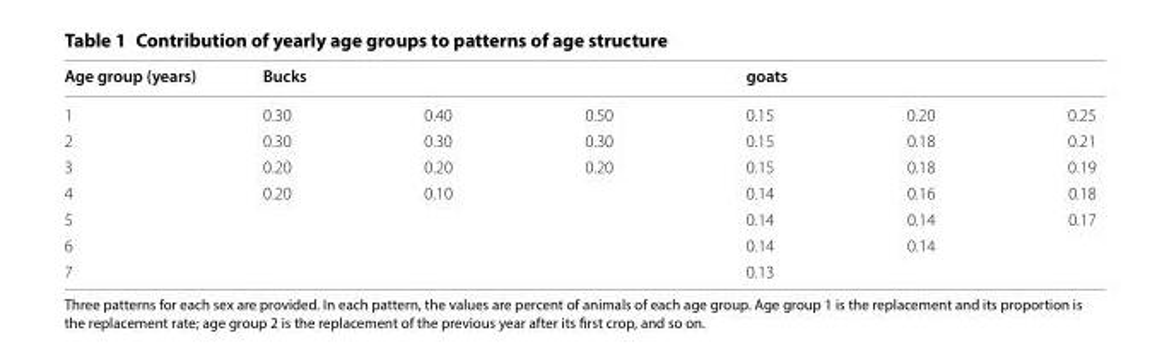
<table><thead><tr><td rowspan="2">Age group (years) 1</td><td colspan="3">Bucks</td><td colspan="3">goats</td></tr><tr><td>0.30</td><td>0.40</td><td>0.50</td><td>0.15</td><td>0.20</td><td>0.25</td></tr></thead><tbody><tr><td>2</td><td>0.30</td><td>0.30</td><td>0.30</td><td>0.15</td><td>0.18</td><td>0.21</td></tr><tr><td>3</td><td>0.20</td><td>0.20</td><td>0.20</td><td>0.15</td><td>0.18</td><td>0.19</td></tr><tr><td>4</td><td>0.20</td><td>0.10</td><td></td><td>0.14</td><td>0.16</td><td>0.18</td></tr><tr><td>5</td><td></td><td></td><td></td><td>0.14</td><td>0.14</td><td>0.17</td></tr><tr><td>6</td><td></td><td></td><td></td><td>0.14</td><td>0.14</td><td></td></tr><tr><td>7</td><td></td><td></td><td></td><td>0.13</td><td></td><td></td></tr></tbody></table>